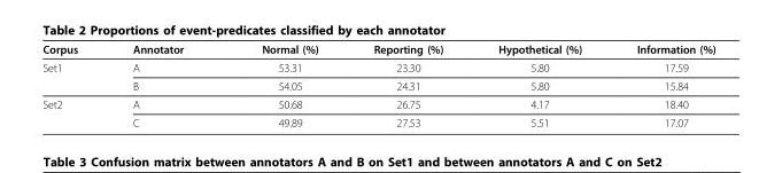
<table><thead><tr><td>Corpus</td><td>Annotator</td><td>Normal (%)</td><td>Reporting (%)</td><td>Hypothetical (%)</td><td>Information (%)</td></tr></thead><tbody><tr><td rowspan="2">Set1</td><td>A</td><td>53.31</td><td>23.30</td><td>5.80</td><td>17.59</td></tr><tr><td>B</td><td>54.05</td><td>24.31</td><td>5.80</td><td>15.84</td></tr><tr><td rowspan="2">Set2</td><td>A</td><td>50.68</td><td>26.75</td><td>4.17</td><td>18.40</td></tr><tr><td>C</td><td>49.89</td><td>27.53</td><td>5.51</td><td>17.07</td></tr></tbody></table>